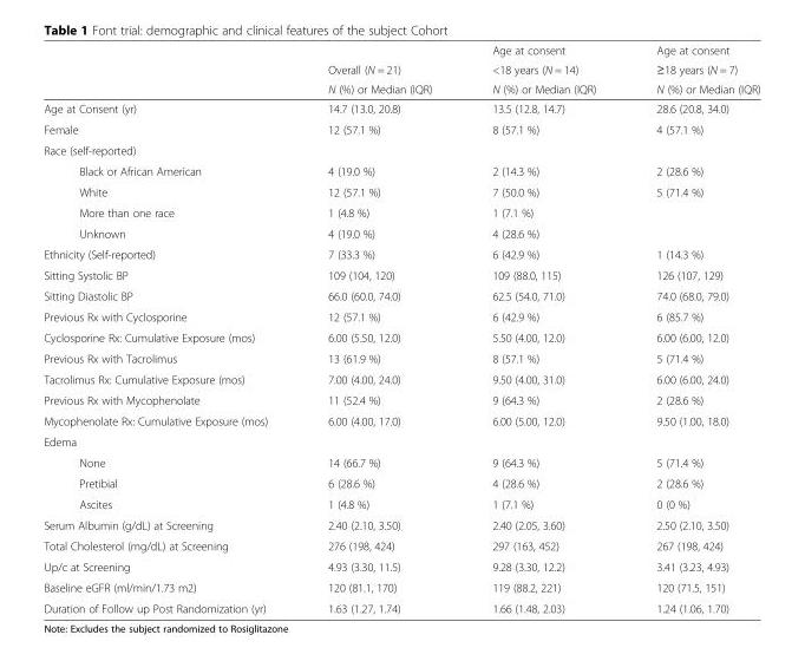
<table><thead><tr><td rowspan="3"></td><td rowspan="3">Overall (N = 21) N (%) or Median (IQR)</td><td rowspan="3">Age at consent &lt;18 years (N = 14) N (%) or Median (IQR)</td><td rowspan="3">Age at consent ≥18 years (N = 7) N (%) or Median (IQR)</td></tr><tr></tr><tr></tr></thead><tbody><tr><td>Age at Consent (yr)</td><td>14.7 (13.0, 20.8)</td><td>13.5 (12.8, 14.7)</td><td>28.6 (20.8, 34.0)</td></tr><tr><td>Female</td><td>12 (57.1 %)</td><td>8 (57.1 %)</td><td>4 (57.1 %)</td></tr><tr><td colspan="4">Race (self-reported)</td></tr><tr><td>Black or African American</td><td>4 (19.0 %)</td><td>2 (14.3 %)</td><td>2 (28.6 %)</td></tr><tr><td>White</td><td>12 (57.1 %)</td><td>7 (50.0 %)</td><td>5 (71.4 %)</td></tr><tr><td>More than one race</td><td>1 (4.8 %)</td><td>1 (7.1 %)</td><td></td></tr><tr><td>Unknown</td><td>4 (19.0 %)</td><td>4 (28.6 %)</td><td></td></tr><tr><td>Ethnicity (Self-reported)</td><td>7 (33.3 %)</td><td>6 (42.9 %)</td><td>1 (14.3 %)</td></tr><tr><td>Sitting Systolic BP</td><td>109 (104, 120)</td><td>109 (88.0, 115)</td><td>126 (107, 129)</td></tr><tr><td>Sitting Diastolic BP</td><td>66.0 (60.0, 74.0)</td><td>62.5 (54.0, 71.0)</td><td>74.0 (68.0, 79.0)</td></tr><tr><td>Previous Rx with Cyclosporine</td><td>12 (57.1 %)</td><td>6 (42.9 %)</td><td>6 (85.7 %)</td></tr><tr><td>Cyclosporine Rx: Cumulative Exposure (mos)</td><td>6.00 (5.50, 12.0)</td><td>5.50 (4.00, 12.0)</td><td>6.00 (6.00, 12.0)</td></tr><tr><td>Previous Rx with Tacrolimus</td><td>13 (61.9 %)</td><td>8 (57.1 %)</td><td>5 (71.4 %)</td></tr><tr><td>Tacrolimus Rx: Cumulative Exposure (mos)</td><td>7.00 (4.00, 24.0)</td><td>9.50 (4.00, 31.0)</td><td>6.00 (6.00, 24.0)</td></tr><tr><td>Previous Rx with Mycophenolate</td><td>11 (52.4 %)</td><td>9 (64.3 %)</td><td>2 (28.6 %)</td></tr><tr><td>Mycophenolate Rx: Cumulative Exposure (mos)</td><td>6.00 (4.00, 17.0)</td><td>6.00 (5.00, 12.0)</td><td>9.50 (1.00, 18.0)</td></tr><tr><td colspan="4">Edema</td></tr><tr><td>None</td><td>14 (66.7 %)</td><td>9 (64.3 %)</td><td>5 (71.4 %)</td></tr><tr><td>Pretibial</td><td>6 (28.6 %)</td><td>4 (28.6 %)</td><td>2 (28.6 %)</td></tr><tr><td>Ascites</td><td>1 (4.8 %)</td><td>1 (7.1 %)</td><td>0 (0 %)</td></tr><tr><td>Serum Albumin (g/dL) at Screening</td><td>2.40 (2.10, 3.50)</td><td>2.40 (2.05, 3.60)</td><td>2.50 (2.10, 3.50)</td></tr><tr><td>Total Cholesterol (mg/dL) at Screening</td><td>276 (198, 424)</td><td>297 (163, 452)</td><td>267 (198, 424)</td></tr><tr><td>Up/c at Screening</td><td>4.93 (3.30, 11.5)</td><td>9.28 (3.30, 12.2)</td><td>3.41 (3.23, 4.93)</td></tr><tr><td>Baseline eGFR (ml/min/1.73 m2)</td><td>120 (81.1, 170)</td><td>119 (88.2, 221)</td><td>120 (71.5, 151)</td></tr><tr><td>Duration of Follow up Post Randomization (yr)</td><td>1.63 (1.27, 1.74)</td><td>1.66 (1.48, 2.03)</td><td>1.24 (1.06, 1.70)</td></tr></tbody></table>